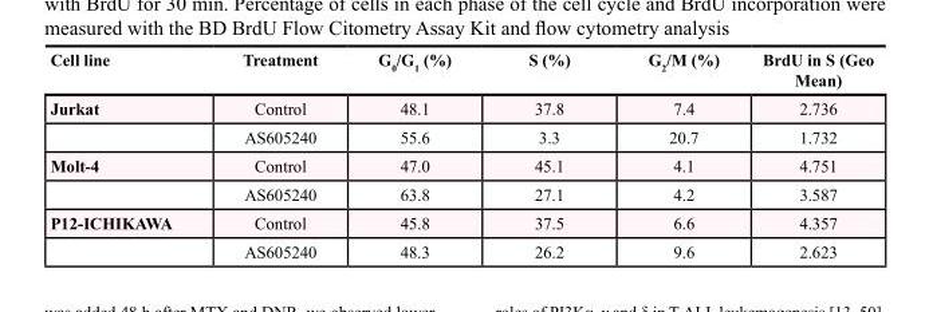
<table><thead><tr><td>Cell line</td><td>Treatment</td><td>G<sub>0</sub>/G<sub>1</sub> (%)</td><td>S (%)</td><td>G<sub>2</sub>/M (%)</td><td>BrdU in S (Geo Mean)</td></tr></thead><tbody><tr><td rowspan="2">Jurkat</td><td>Control</td><td>48.1</td><td>37.8</td><td>7.4</td><td>2.736</td></tr><tr><td>AS605240</td><td>55.6</td><td>3.3</td><td>20.7</td><td>1.732</td></tr><tr><td rowspan="2">Molt-4</td><td>Control</td><td>47.0</td><td>45.1</td><td>4.1</td><td>4.751</td></tr><tr><td>AS605240</td><td>63.8</td><td>27.1</td><td>4.2</td><td>3.587</td></tr><tr><td rowspan="2">P12-ICHIKAWA</td><td>Control</td><td>45.8</td><td>37.5</td><td>6.6</td><td>4.357</td></tr><tr><td>AS605240</td><td>48.3</td><td>26.2</td><td>9.6</td><td>2.623</td></tr></tbody></table>